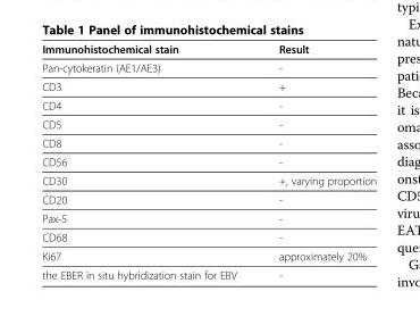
<table><thead><tr><td>Immunohistochemical stain</td><td>Result</td></tr></thead><tbody><tr><td>Pan-cytokeratin (AE1/AE3)</td><td>-</td></tr><tr><td>CD3</td><td>+</td></tr><tr><td>CD4</td><td>-</td></tr><tr><td>CD5</td><td>-</td></tr><tr><td>CD8</td><td>-</td></tr><tr><td>CD56</td><td>-</td></tr><tr><td>CD30</td><td>+, varying proportion</td></tr><tr><td>CD20</td><td>-</td></tr><tr><td>Pax-5</td><td>-</td></tr><tr><td>CD68</td><td>-</td></tr><tr><td>Ki67</td><td>approximately 20%</td></tr><tr><td>the EBER in situ hybridization stain for EBV</td><td>-</td></tr></tbody></table>